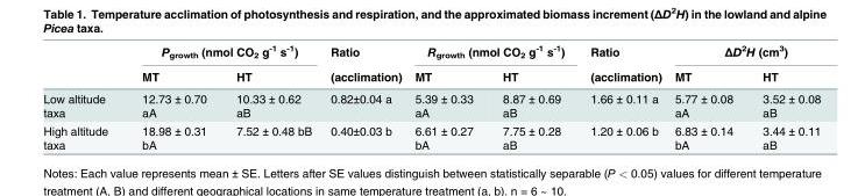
<table><thead><tr><td rowspan="2"></td><td colspan="2">P<sub>growth</sub> (nmol CO<sub>2</sub> g<sup>-1</sup> s<sup>-1</sup>)</td><td rowspan="2">Ratio (acclimation)</td><td colspan="2">R<sub>growth</sub> (nmol CO<sub>2</sub> g<sup>-1</sup> s<sup>-1</sup>)</td><td rowspan="2">Ratio (acclimation)</td><td colspan="2">ΔD<sup>2</sup>H (cm<sup>3</sup>)</td></tr><tr><td>MT</td><td>HT</td><td>MT</td><td>HT</td><td>MT</td><td>HT</td></tr></thead><tbody><tr><td>Low altitude taxa</td><td>12.73 ± 0.70 aA</td><td>10.33 ± 0.62 aB</td><td>0.82±0.04 a</td><td>5.39 ± 0.33 aA</td><td>8.87 ± 0.69 aB</td><td>1.66 ± 0.11 a</td><td>5.77 ± 0.08 aA</td><td>3.52 ± 0.08 aB</td></tr><tr><td>High altitude taxa</td><td>18.98 ± 0.31 bA</td><td>7.52 ± 0.48 bB</td><td>0.40±0.03 b</td><td>6.61 ± 0.27 bA</td><td>7.75 ± 0.28 aB</td><td>1.20 ± 0.06 b</td><td>6.83 ± 0.14 bA</td><td>3.44 ± 0.11 aB</td></tr></tbody></table>